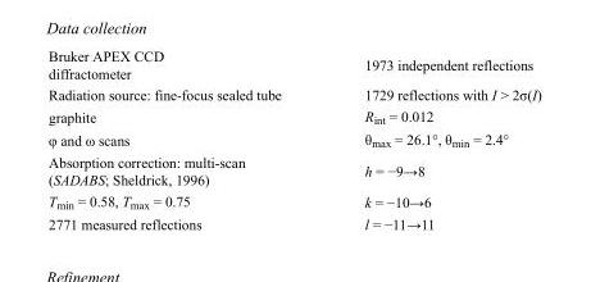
<table><tbody><tr><td>Bruker APEX CCD diffractometer</td><td>1973 independent reflections</td></tr><tr><td>Radiation source: fine-focus sealed tube</td><td>1729 reflections with I &gt; 2σ(I)</td></tr><tr><td>graphite</td><td>R<sub>int</sub> = 0.012</td></tr><tr><td>φ and ω scans</td><td>θ<sub>max</sub> = 26.1°, θ<sub>min</sub> = 2.4°</td></tr><tr><td>Absorption correction: multi-scan (SADABS; Sheldrick, 1996)</td><td>h = −9→8</td></tr><tr><td>T<sub>min</sub> = 0.58, T<sub>max</sub> = 0.75</td><td>k = −10→6</td></tr><tr><td>2771 measured reflections</td><td>l = −11→11</td></tr></tbody></table>